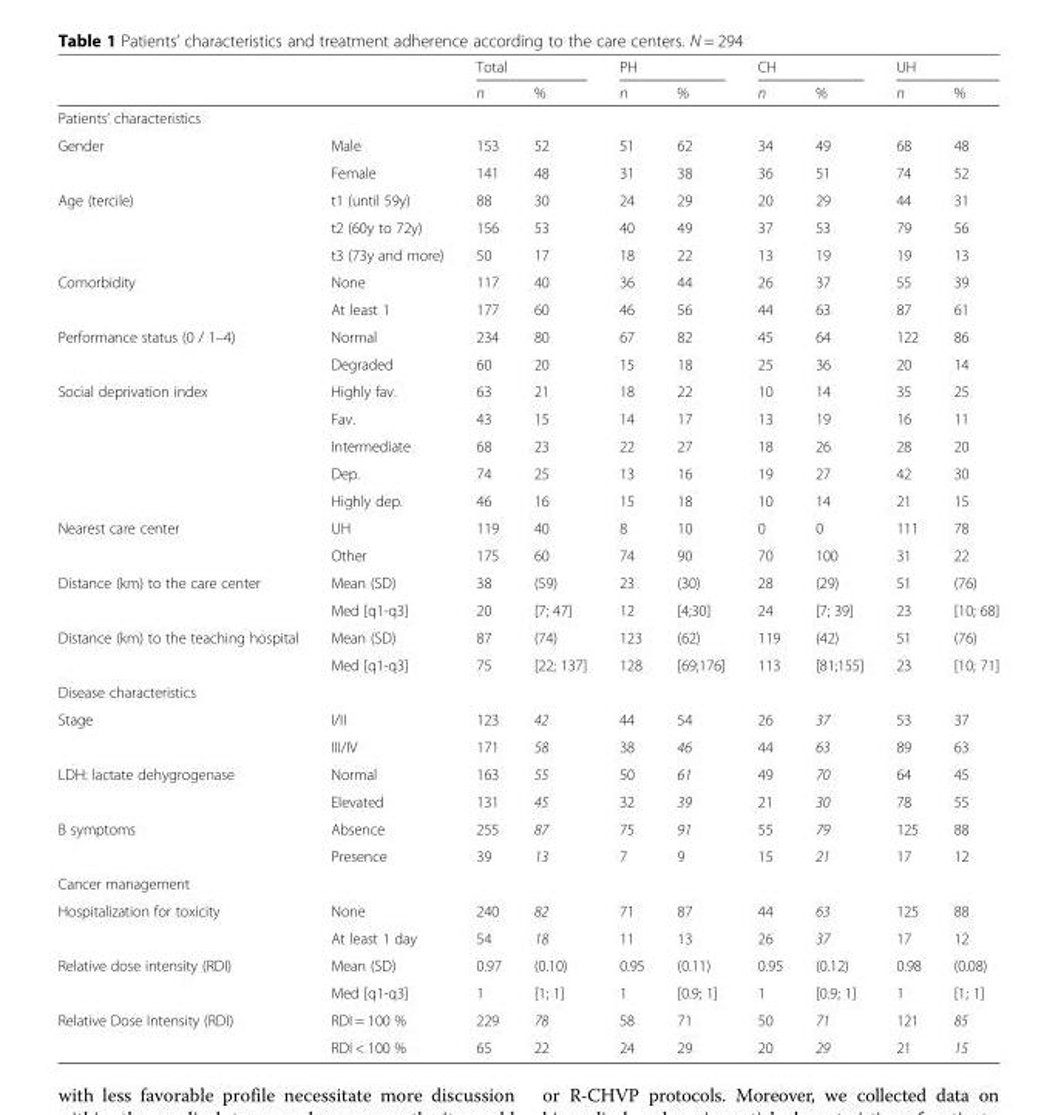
<table><thead><tr><td rowspan="2"></td><td rowspan="2"></td><td colspan="2">Total</td><td colspan="2">PH</td><td colspan="2">CH</td><td colspan="2">UH</td></tr><tr><td>n</td><td>%</td><td>n</td><td>%</td><td>n</td><td>%</td><td>n</td><td>%</td></tr></thead><tbody><tr><td colspan="10">Patients’ characteristics</td></tr><tr><td rowspan="2">Gender</td><td>Male</td><td>153</td><td>52</td><td>51</td><td>62</td><td>34</td><td>49</td><td>68</td><td>48</td></tr><tr><td>Female</td><td>141</td><td>48</td><td>31</td><td>38</td><td>36</td><td>51</td><td>74</td><td>52</td></tr><tr><td rowspan="3">Age (tercile)</td><td>t1 (until 59y)</td><td>88</td><td>30</td><td>24</td><td>29</td><td>20</td><td>29</td><td>44</td><td>31</td></tr><tr><td>t2 (60y to 72y)</td><td>156</td><td>53</td><td>40</td><td>49</td><td>37</td><td>53</td><td>79</td><td>56</td></tr><tr><td>t3 (73y and more)</td><td>50</td><td>17</td><td>18</td><td>22</td><td>13</td><td>19</td><td>19</td><td>13</td></tr><tr><td rowspan="2">Comorbidity</td><td>None</td><td>117</td><td>40</td><td>36</td><td>44</td><td>26</td><td>37</td><td>55</td><td>39</td></tr><tr><td>At least 1</td><td>177</td><td>60</td><td>46</td><td>56</td><td>44</td><td>63</td><td>87</td><td>61</td></tr><tr><td rowspan="2">Performance status (0 / 1–4)</td><td>Normal</td><td>234</td><td>80</td><td>67</td><td>82</td><td>45</td><td>64</td><td>122</td><td>86</td></tr><tr><td>Degraded</td><td>60</td><td>20</td><td>15</td><td>18</td><td>25</td><td>36</td><td>20</td><td>14</td></tr><tr><td rowspan="5">Social deprivation index</td><td>Highly fav.</td><td>63</td><td>21</td><td>18</td><td>22</td><td>10</td><td>14</td><td>35</td><td>25</td></tr><tr><td>Fav.</td><td>43</td><td>15</td><td>14</td><td>17</td><td>13</td><td>19</td><td>16</td><td>11</td></tr><tr><td>Intermediate</td><td>68</td><td>23</td><td>22</td><td>27</td><td>18</td><td>26</td><td>28</td><td>20</td></tr><tr><td>Dep.</td><td>74</td><td>25</td><td>13</td><td>16</td><td>19</td><td>27</td><td>42</td><td>30</td></tr><tr><td>Highly dep.</td><td>46</td><td>16</td><td>15</td><td>18</td><td>10</td><td>14</td><td>21</td><td>15</td></tr><tr><td rowspan="2">Nearest care center</td><td>UH</td><td>119</td><td>40</td><td>8</td><td>10</td><td>0</td><td>0</td><td>111</td><td>78</td></tr><tr><td>Other</td><td>175</td><td>60</td><td>74</td><td>90</td><td>70</td><td>100</td><td>31</td><td>22</td></tr><tr><td rowspan="2">Distance (km) to the care center</td><td>Mean (SD)</td><td>38</td><td>(59)</td><td>23</td><td>(30)</td><td>28</td><td>(29)</td><td>51</td><td>(76)</td></tr><tr><td>Med [q1-q3]</td><td>20</td><td>[7; 47]</td><td>12</td><td>[4;30]</td><td>24</td><td>[7; 39]</td><td>23</td><td>[10; 68]</td></tr><tr><td rowspan="2">Distance (km) to the teaching hospital</td><td>Mean (SD)</td><td>87</td><td>(74)</td><td>123</td><td>(62)</td><td>119</td><td>(42)</td><td>51</td><td>(76)</td></tr><tr><td>Med [q1-q3]</td><td>75</td><td>[22; 137]</td><td>128</td><td>[69;176]</td><td>113</td><td>[81;155]</td><td>23</td><td>[10; 71]</td></tr><tr><td colspan="10">Disease characteristics</td></tr><tr><td rowspan="2">Stage</td><td>I/II</td><td>123</td><td>42</td><td>44</td><td>54</td><td>26</td><td>37</td><td>53</td><td>37</td></tr><tr><td>III/IV</td><td>171</td><td>58</td><td>38</td><td>46</td><td>44</td><td>63</td><td>89</td><td>63</td></tr><tr><td rowspan="2">LDH: lactate dehygrogenase</td><td>Normal</td><td>163</td><td>55</td><td>50</td><td>61</td><td>49</td><td>70</td><td>64</td><td>45</td></tr><tr><td>Elevated</td><td>131</td><td>45</td><td>32</td><td>39</td><td>21</td><td>30</td><td>78</td><td>55</td></tr><tr><td rowspan="2">B symptoms</td><td>Absence</td><td>255</td><td>87</td><td>75</td><td>91</td><td>55</td><td>79</td><td>125</td><td>88</td></tr><tr><td>Presence</td><td>39</td><td>13</td><td>7</td><td>9</td><td>15</td><td>21</td><td>17</td><td>12</td></tr><tr><td colspan="10">Cancer management</td></tr><tr><td rowspan="2">Hospitalization for toxicity</td><td>None</td><td>240</td><td>82</td><td>71</td><td>87</td><td>44</td><td>63</td><td>125</td><td>88</td></tr><tr><td>At least 1 day</td><td>54</td><td>18</td><td>11</td><td>13</td><td>26</td><td>37</td><td>17</td><td>12</td></tr><tr><td rowspan="2">Relative dose intensity (RDI)</td><td>Mean (SD)</td><td>0.97</td><td>(0.10)</td><td>0.95</td><td>(0.11)</td><td>0.95</td><td>(0.12)</td><td>0.98</td><td>(0.08)</td></tr><tr><td>Med [q1-q3]</td><td>1</td><td>[1; 1]</td><td>1</td><td>[0.9; 1]</td><td>1</td><td>[0.9; 1]</td><td>1</td><td>[1; 1]</td></tr><tr><td rowspan="2">Relative Dose Intensity (RDI)</td><td>RDI = 100 %</td><td>229</td><td>78</td><td>58</td><td>71</td><td>50</td><td>71</td><td>121</td><td>85</td></tr><tr><td>RDI &lt; 100 %</td><td>65</td><td>22</td><td>24</td><td>29</td><td>20</td><td>29</td><td>21</td><td>15</td></tr></tbody></table>